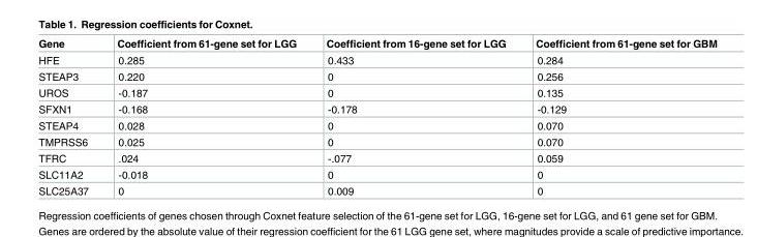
<table><thead><tr><td>Gene</td><td>Coefficient from 61-gene set for LGG</td><td>Coefficient from 16-gene set for LGG</td><td>Coefficient from 61-gene set for GBM</td></tr></thead><tbody><tr><td>HFE</td><td>0.285</td><td>0.433</td><td>0.284</td></tr><tr><td>STEAP3</td><td>0.220</td><td>0</td><td>0.256</td></tr><tr><td>UROS</td><td>-0.187</td><td>0</td><td>0.135</td></tr><tr><td>SFXN1</td><td>-0.168</td><td>-0.178</td><td>-0.129</td></tr><tr><td>STEAP4</td><td>0.028</td><td>0</td><td>0.070</td></tr><tr><td>TMPRSS6</td><td>0.025</td><td>0</td><td>0.070</td></tr><tr><td>TFRC</td><td>.024</td><td>-.077</td><td>0.059</td></tr><tr><td>SLC11A2</td><td>-0.018</td><td>0</td><td>0</td></tr><tr><td>SLC25A37</td><td>0</td><td>0.009</td><td>0</td></tr></tbody></table>